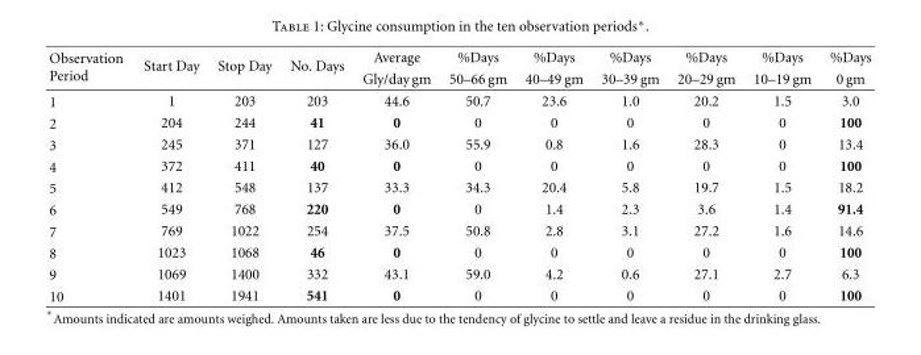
<table><thead><tr><td rowspan="2">Observation Period</td><td rowspan="2">Start Day</td><td rowspan="2">Stop Day</td><td rowspan="2">No. Days</td><td rowspan="2">Average Gly/day gm</td><td rowspan="2">%Days 50–66 gm</td><td rowspan="2">%Days 40–49 gm</td><td rowspan="2">%Days 30–39 gm</td><td rowspan="2">%Days 20–29 gm</td><td rowspan="2">%Days 10–19 gm</td><td rowspan="2">%Days 0 gm</td></tr><tr></tr></thead><tbody><tr><td>1</td><td>1</td><td>203</td><td>203</td><td>44.6</td><td>50.7</td><td>23.6</td><td>1.0</td><td>20.2</td><td>1.5</td><td>3.0</td></tr><tr><td>2</td><td>204</td><td>244</td><td>41</td><td>0</td><td>0</td><td>0</td><td>0</td><td>0</td><td>0</td><td>100</td></tr><tr><td>3</td><td>245</td><td>371</td><td>127</td><td>36.0</td><td>55.9</td><td>0.8</td><td>1.6</td><td>28.3</td><td>0</td><td>13.4</td></tr><tr><td>4</td><td>372</td><td>411</td><td>40</td><td>0</td><td>0</td><td>0</td><td>0</td><td>0</td><td>0</td><td>100</td></tr><tr><td>5</td><td>412</td><td>548</td><td>137</td><td>33.3</td><td>34.3</td><td>20.4</td><td>5.8</td><td>19.7</td><td>1.5</td><td>18.2</td></tr><tr><td>6</td><td>549</td><td>768</td><td>220</td><td>0</td><td>0</td><td>1.4</td><td>2.3</td><td>3.6</td><td>1.4</td><td>91.4</td></tr><tr><td>7</td><td>769</td><td>1022</td><td>254</td><td>37.5</td><td>50.8</td><td>2.8</td><td>3.1</td><td>27.2</td><td>1.6</td><td>14.6</td></tr><tr><td>8</td><td>1023</td><td>1068</td><td>46</td><td>0</td><td>0</td><td>0</td><td>0</td><td>0</td><td>0</td><td>100</td></tr><tr><td>9</td><td>1069</td><td>1400</td><td>332</td><td>43.1</td><td>59.0</td><td>4.2</td><td>0.6</td><td>27.1</td><td>2.7</td><td>6.3</td></tr><tr><td>10</td><td>1401</td><td>1941</td><td>541</td><td>0</td><td>0</td><td>0</td><td>0</td><td>0</td><td>0</td><td>100</td></tr></tbody></table>